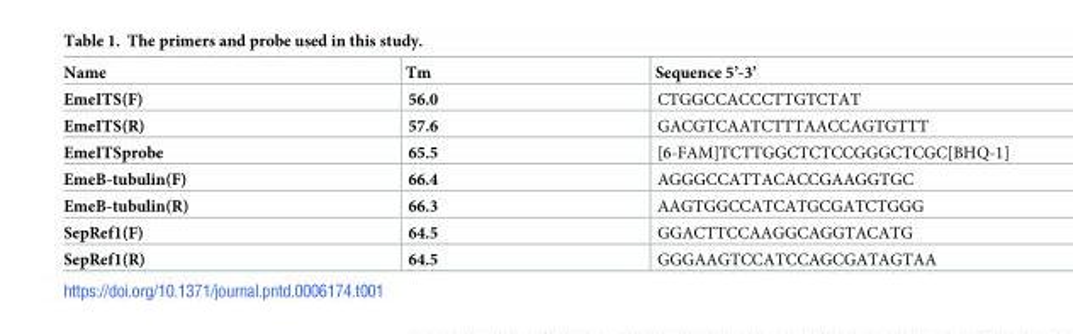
<table><thead><tr><td>Name</td><td>Tm</td><td>Sequence 5’-3’</td></tr></thead><tbody><tr><td>EmeITS(F)</td><td>56.0</td><td>CTGGCCACCCTTGTCTAT</td></tr><tr><td>EmeITS(R)</td><td>57.6</td><td>GACGTCAATCTTTAACCAGTGTTT</td></tr><tr><td>EmeITSprobe</td><td>65.5</td><td>[6-FAM]TCTTGGCTCTCCGGGCTCGC[BHQ-1]</td></tr><tr><td>EmeB-tubulin(F)</td><td>66.4</td><td>AGGGCCATTACACCGAAGGTGC</td></tr><tr><td>EmeB-tubulin(R)</td><td>66.3</td><td>AAGTGGCCATCATGCGATCTGGG</td></tr><tr><td>SepRef1(F)</td><td>64.5</td><td>GGACTTCCAAGGCAGGTACATG</td></tr><tr><td>SepRef1(R)</td><td>64.5</td><td>GGGAAGTCCATCCAGCGATAGTAA</td></tr></tbody></table>